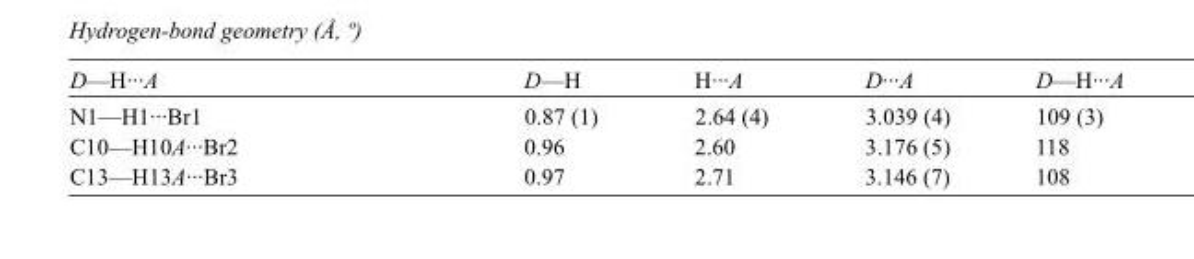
<table><tbody><tr><td>D—H···A</td><td>D—H</td><td>H···A</td><td>D···A</td><td>D—H···A</td></tr><tr><td>N1—H1···Br1</td><td>0.87 (1)</td><td>2.64 (4)</td><td>3.039 (4)</td><td>109 (3)</td></tr><tr><td>C10—H10A···Br2</td><td>0.96</td><td>2.60</td><td>3.176 (5)</td><td>118</td></tr><tr><td>C13—H13A···Br3</td><td>0.97</td><td>2.71</td><td>3.146 (7)</td><td>108</td></tr></tbody></table>